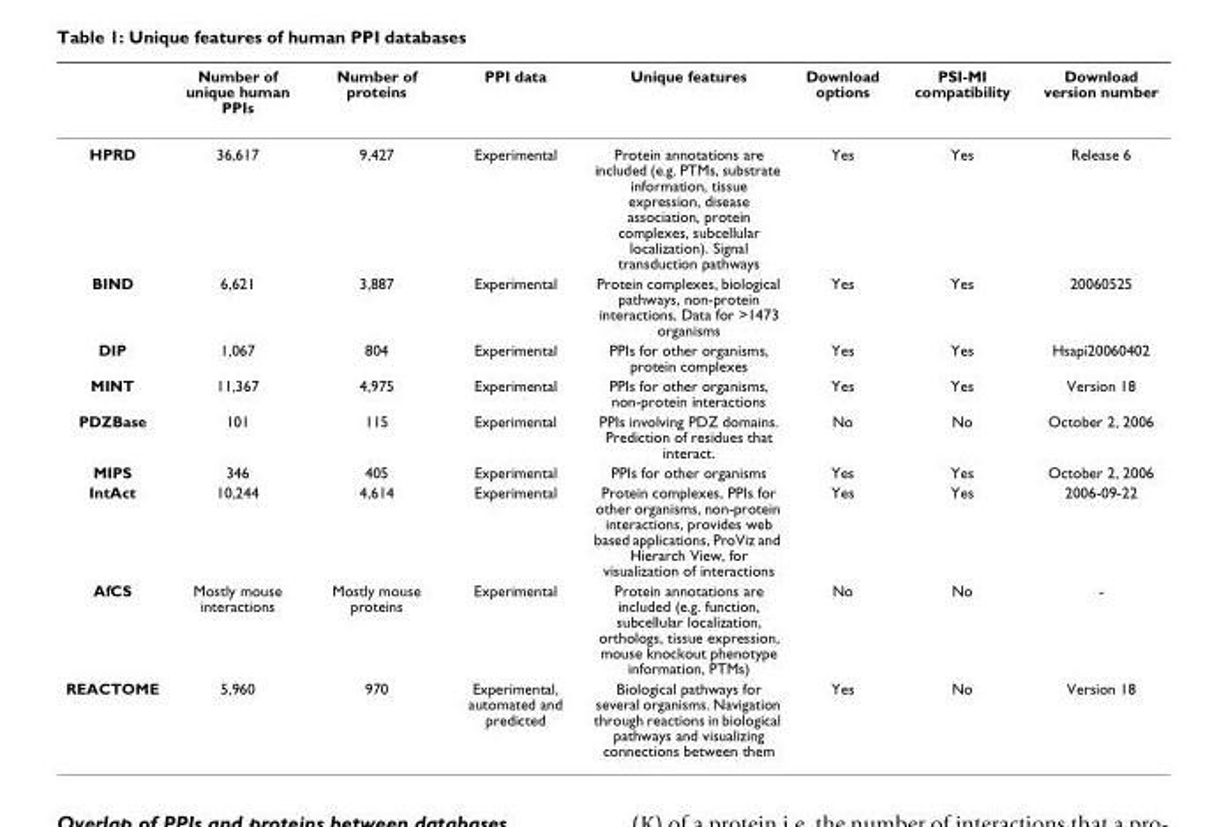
<table><thead><tr><td></td><td>Number of unique human PPIs</td><td>Number of proteins</td><td>PPI data</td><td>Unique features</td><td>Download options</td><td>PSI-MI compatibility</td><td>Download version number</td></tr></thead><tbody><tr><td>HPRD</td><td>36,617</td><td>9,427</td><td>Experimental</td><td>Protein annotations are included (e.g. PTMs, substrate information, tissue expression, disease association, protein complexes, subcellular localization). Signal transduction pathways</td><td>Yes</td><td>Yes</td><td>Release 6</td></tr><tr><td>BIND</td><td>6,621</td><td>3,887</td><td>Experimental</td><td>Protein complexes, biological pathways, non-protein interactions, Data for &gt;1473 organisms</td><td>Yes</td><td>Yes</td><td>20060525</td></tr><tr><td>DIP</td><td>1,067</td><td>804</td><td>Experimental</td><td>PPIs for other organisms, protein complexes</td><td>Yes</td><td>Yes</td><td>Hsapi20060402</td></tr><tr><td>MINT</td><td>11,367</td><td>4,975</td><td>Experimental</td><td>PPIs for other organisms, non-protein interactions</td><td>Yes</td><td>Yes</td><td>Version 18</td></tr><tr><td>PDZBase</td><td>101</td><td>115</td><td>Experimental</td><td>PPIs involving PDZ domains. Prediction of residues that interact.</td><td>No</td><td>No</td><td>October 2, 2006</td></tr><tr><td>MIPS</td><td>346</td><td>405</td><td>Experimental</td><td>PPIs for other organisms</td><td>Yes</td><td>Yes</td><td>October 2, 2006</td></tr><tr><td>IntAct</td><td>10,244</td><td>4,614</td><td>Experimental</td><td>Protein complexes, PPIs for other organisms, non-protein interactions, provides web based applications, ProViz and Hierarch View, for visualization of interactions</td><td>Yes</td><td>Yes</td><td>2006-09-22</td></tr><tr><td>AfCS</td><td>Mostly mouse interactions</td><td>Mostly mouse proteins</td><td>Experimental</td><td>Protein annotations are included (e.g. function, subcellular localization, orthologs, tissue expression, mouse knockout phenotype information, PTMs)</td><td>No</td><td>No</td><td>-</td></tr><tr><td>REACTOME</td><td>5,960</td><td>970</td><td>Experimental, automated and predicted</td><td>Biological pathways for several organisms. Navigation through reactions in biological pathways and visualizing connections between them</td><td>Yes</td><td>No</td><td>Version 18</td></tr></tbody></table>